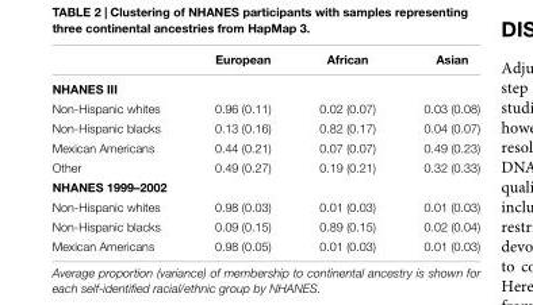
<table><thead><tr><td></td><td>European</td><td>African</td><td>Asian</td></tr></thead><tbody><tr><td colspan="4">NHANES III</td></tr><tr><td>Non-Hispanic whites</td><td>0.96 (0.11)</td><td>0.02 (0.07)</td><td>0.03 (0.08)</td></tr><tr><td>Non-Hispanic blacks</td><td>0.13 (0.16)</td><td>0.82 (0.17)</td><td>0.04 (0.07)</td></tr><tr><td>Mexican Americans</td><td>0.44 (0.21)</td><td>0.07 (0.07)</td><td>0.49 (0.23)</td></tr><tr><td>Other</td><td>0.49 (0.27)</td><td>0.19 (0.21)</td><td>0.32 (0.33)</td></tr><tr><td colspan="4">NHANES 1999–2002</td></tr><tr><td>Non-Hispanic whites</td><td>0.98 (0.03)</td><td>0.01 (0.03)</td><td>0.01 (0.03)</td></tr><tr><td>Non-Hispanic blacks</td><td>0.09 (0.15)</td><td>0.89 (0.15)</td><td>0.02 (0.04)</td></tr><tr><td>Mexican Americans</td><td>0.98 (0.05)</td><td>0.01 (0.03)</td><td>0.01 (0.03)</td></tr></tbody></table>